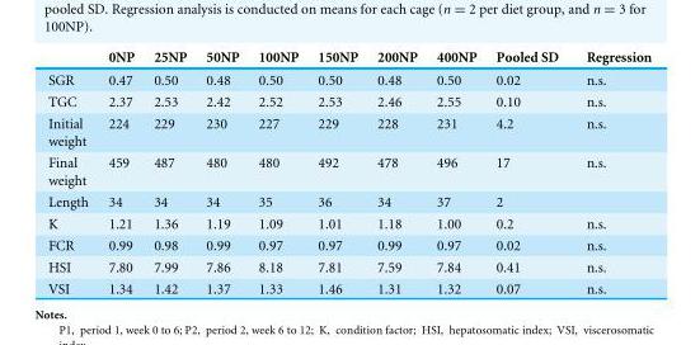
<table><thead><tr><td></td><td>0NP</td><td>25NP</td><td>50NP</td><td>100NP</td><td>150NP</td><td>200NP</td><td>400NP</td><td>Pooled SD</td><td>Regression</td></tr></thead><tbody><tr><td>SGR</td><td>0.47</td><td>0.50</td><td>0.48</td><td>0.50</td><td>0.50</td><td>0.48</td><td>0.50</td><td>0.02</td><td>n.s.</td></tr><tr><td>TGC</td><td>2.37</td><td>2.53</td><td>2.42</td><td>2.52</td><td>2.53</td><td>2.46</td><td>2.55</td><td>0.10</td><td>n.s.</td></tr><tr><td>Initial weight</td><td>224</td><td>229</td><td>230</td><td>227</td><td>229</td><td>228</td><td>231</td><td>4.2</td><td>n.s.</td></tr><tr><td>Final weight</td><td>459</td><td>487</td><td>480</td><td>480</td><td>492</td><td>478</td><td>496</td><td>17</td><td>n.s.</td></tr><tr><td>Length</td><td>34</td><td>34</td><td>34</td><td>35</td><td>36</td><td>34</td><td>37</td><td>2</td><td></td></tr><tr><td>K</td><td>1.21</td><td>1.36</td><td>1.19</td><td>1.09</td><td>1.01</td><td>1.18</td><td>1.00</td><td>0.2</td><td>n.s.</td></tr><tr><td>FCR</td><td>0.99</td><td>0.98</td><td>0.99</td><td>0.97</td><td>0.97</td><td>0.99</td><td>0.97</td><td>0.02</td><td>n.s.</td></tr><tr><td>HSI</td><td>7.80</td><td>7.99</td><td>7.86</td><td>8.18</td><td>7.81</td><td>7.59</td><td>7.84</td><td>0.41</td><td>n.s.</td></tr><tr><td>VSI</td><td>1.34</td><td>1.42</td><td>1.37</td><td>1.33</td><td>1.46</td><td>1.31</td><td>1.32</td><td>0.07</td><td>n.s.</td></tr></tbody></table>